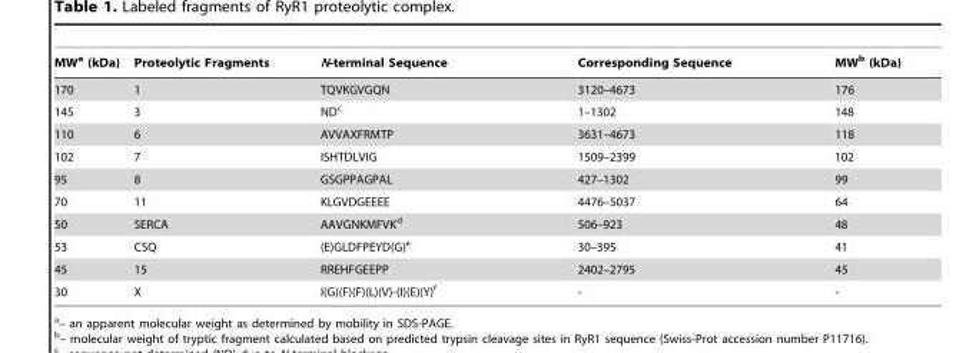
<table><thead><tr><td>MW<sup>a</sup> (kDa)</td><td>Proteolytic Fragments</td><td>N-terminal Sequence</td><td>Corresponding Sequence</td><td>MW<sup>b</sup> (kDa)</td></tr></thead><tbody><tr><td>170</td><td>1</td><td>TQVKGVGQN</td><td>3120–4673</td><td>176</td></tr><tr><td>145</td><td>3</td><td>ND<sup>c</sup></td><td>1–1302</td><td>148</td></tr><tr><td>110</td><td>6</td><td>AVVAXFRMTP</td><td>3631–4673</td><td>118</td></tr><tr><td>102</td><td>7</td><td>ISHTDLVIG</td><td>1509–2399</td><td>102</td></tr><tr><td>95</td><td>8</td><td>GSGPPAGPAL</td><td>427–1302</td><td>99</td></tr><tr><td>70</td><td>11</td><td>KLGVDGEEEE</td><td>4476–5037</td><td>64</td></tr><tr><td>50</td><td>SERCA</td><td>AAVGNKMFVK<sup>d</sup></td><td>506–923</td><td>48</td></tr><tr><td>53</td><td>CSQ</td><td>(E)GLDFPEYD(G)<sup>e</sup></td><td>30–395</td><td>41</td></tr><tr><td>45</td><td>15</td><td>RREHFGEEPP</td><td>2402–2795</td><td>45</td></tr><tr><td>30</td><td>X</td><td>I(G)(F)(F)(L)(V)-(I)(E)(Y)<sup>f</sup></td><td>-</td><td>-</td></tr></tbody></table>